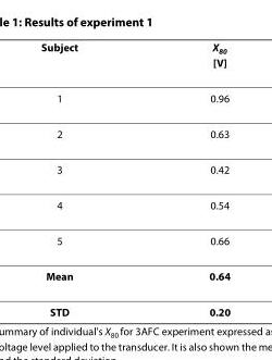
<table><thead><tr><td>Subject</td><td>X<sub>80</sub> [V]</td></tr></thead><tbody><tr><td>1</td><td>0.96</td></tr><tr><td>2</td><td>0.63</td></tr><tr><td>3</td><td>0.42</td></tr><tr><td>4</td><td>0.54</td></tr><tr><td>5</td><td>0.66</td></tr><tr><td>Mean</td><td>0.64</td></tr><tr><td>STD</td><td>0.20</td></tr></tbody></table>